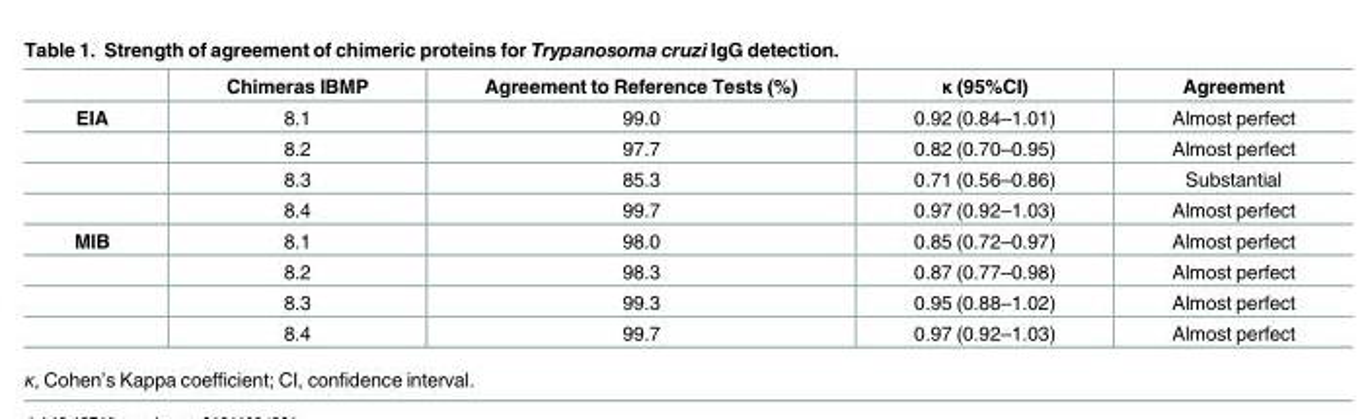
<table><thead><tr><td></td><td>Chimeras IBMP</td><td>Agreement to Reference Tests (%)</td><td>κ (95%CI)</td><td>Agreement</td></tr></thead><tbody><tr><td rowspan="4">EIA</td><td>8.1</td><td>99.0</td><td>0.92 (0.84–1.01)</td><td>Almost perfect</td></tr><tr><td>8.2</td><td>97.7</td><td>0.82 (0.70–0.95)</td><td>Almost perfect</td></tr><tr><td>8.3</td><td>85.3</td><td>0.71 (0.56–0.86)</td><td>Substantial</td></tr><tr><td>8.4</td><td>99.7</td><td>0.97 (0.92–1.03)</td><td>Almost perfect</td></tr><tr><td rowspan="4">MIB</td><td>8.1</td><td>98.0</td><td>0.85 (0.72–0.97)</td><td>Almost perfect</td></tr><tr><td>8.2</td><td>98.3</td><td>0.87 (0.77–0.98)</td><td>Almost perfect</td></tr><tr><td>8.3</td><td>99.3</td><td>0.95 (0.88–1.02)</td><td>Almost perfect</td></tr><tr><td>8.4</td><td>99.7</td><td>0.97 (0.92–1.03)</td><td>Almost perfect</td></tr></tbody></table>